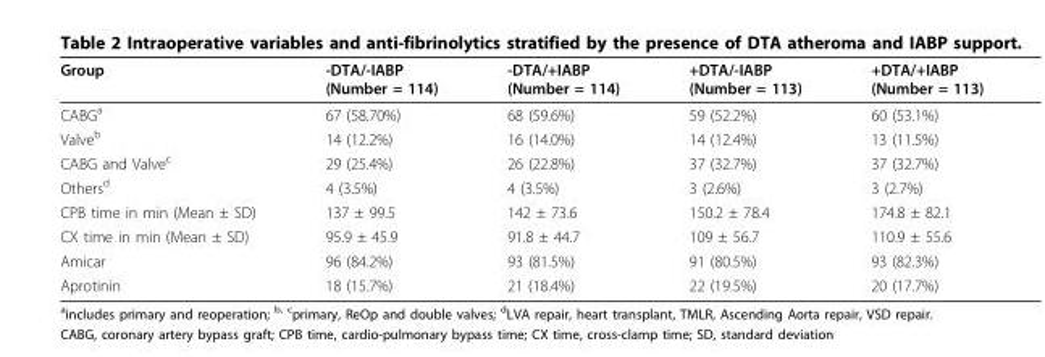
<table><thead><tr><td>Group</td><td>-DTA/-IABP (Number = 114)</td><td>-DTA/+IABP (Number = 114)</td><td>+DTA/-IABP (Number = 113)</td><td>+DTA/+IABP (Number = 113)</td></tr></thead><tbody><tr><td>CABG<sup>a</sup></td><td>67 (58.70%)</td><td>68 (59.6%)</td><td>59 (52.2%)</td><td>60 (53.1%)</td></tr><tr><td>Valve<sup>b</sup></td><td>14 (12.2%)</td><td>16 (14.0%)</td><td>14 (12.4%)</td><td>13 (11.5%)</td></tr><tr><td>CABG and Valve<sup>c</sup></td><td>29 (25.4%)</td><td>26 (22.8%)</td><td>37 (32.7%)</td><td>37 (32.7%)</td></tr><tr><td>Others<sup>d</sup></td><td>4 (3.5%)</td><td>4 (3.5%)</td><td>3 (2.6%)</td><td>3 (2.7%)</td></tr><tr><td>CPB time in min (Mean ± SD)</td><td>137 ± 99.5</td><td>142 ± 73.6</td><td>150.2 ± 78.4</td><td>174.8 ± 82.1</td></tr><tr><td>CX time in min (Mean ± SD)</td><td>95.9 ± 45.9</td><td>91.8 ± 44.7</td><td>109 ± 56.7</td><td>110.9 ± 55.6</td></tr><tr><td>Amicar</td><td>96 (84.2%)</td><td>93 (81.5%)</td><td>91 (80.5%)</td><td>93 (82.3%)</td></tr><tr><td>Aprotinin</td><td>18 (15.7%)</td><td>21 (18.4%)</td><td>22 (19.5%)</td><td>20 (17.7%)</td></tr></tbody></table>